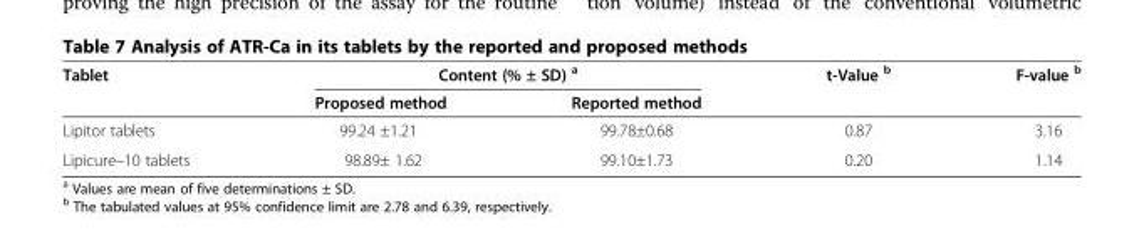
<table><thead><tr><td rowspan="2">Tablet</td><td colspan="2">Content (% ± SD) <sup>a</sup></td><td rowspan="2">t-Value <sup>b</sup></td><td rowspan="2">F-value <sup>b</sup></td></tr><tr><td>Proposed method</td><td>Reported method</td></tr></thead><tbody><tr><td>Lipitor tablets</td><td>99.24 ±1.21</td><td>99.78±0.68</td><td>0.87</td><td>3.16</td></tr><tr><td>Lipicure–10 tablets</td><td>98.89± 1.62</td><td>99.10±1.73</td><td>0.20</td><td>1.14</td></tr></tbody></table>